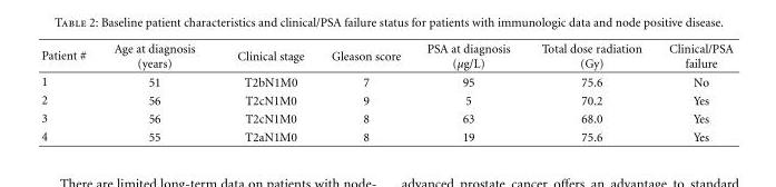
<table><thead><tr><td>Patient #</td><td>Age at diagnosis (years)</td><td>Clinical stage</td><td>Gleason score</td><td>PSA at diagnosis (µg/L)</td><td>Total dose radiation (Gy)</td><td>Clinical/PSA failure</td></tr></thead><tbody><tr><td>1</td><td>51</td><td>T2bN1M0</td><td>7</td><td>95</td><td>75.6</td><td>No</td></tr><tr><td>2</td><td>56</td><td>T2cN1M0</td><td>9</td><td>5</td><td>70.2</td><td>Yes</td></tr><tr><td>3</td><td>56</td><td>T2cN1M0</td><td>8</td><td>63</td><td>68.0</td><td>Yes</td></tr><tr><td>4</td><td>55</td><td>T2aN1M0</td><td>8</td><td>19</td><td>75.6</td><td>Yes</td></tr></tbody></table>